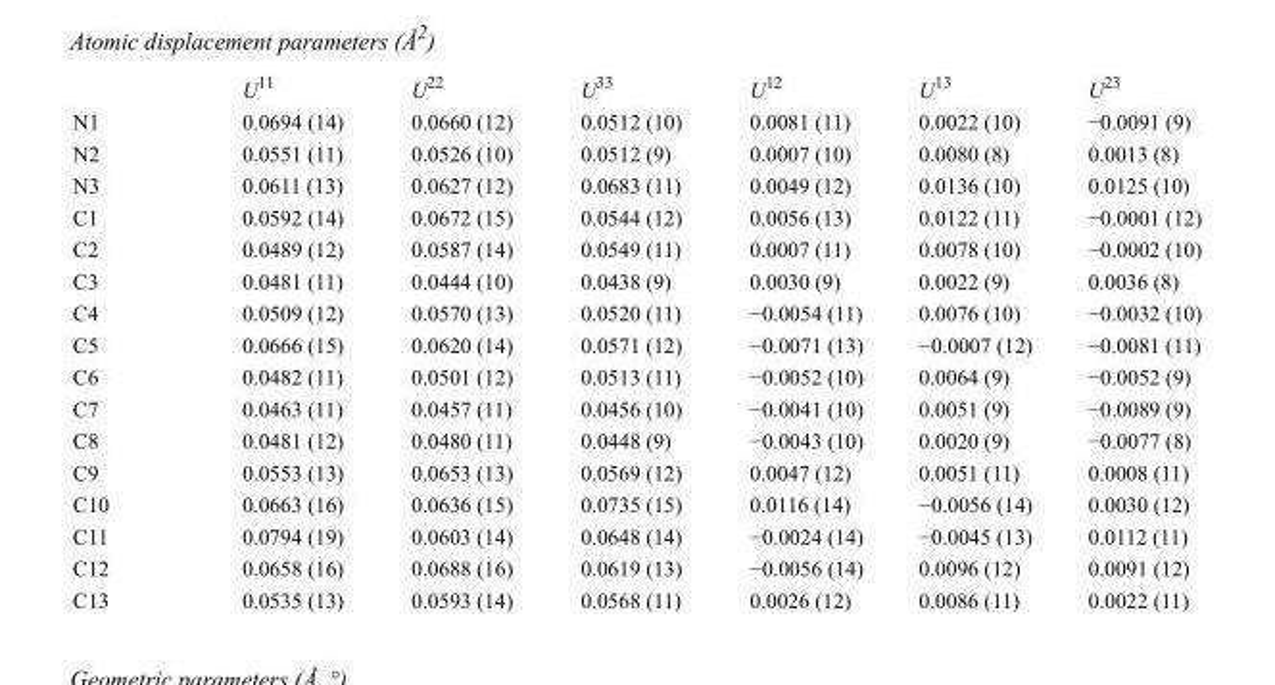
<table><thead><tr><td></td><td>U<sup>11</sup></td><td>U<sup>22</sup></td><td>U<sup>33</sup></td><td>U<sup>12</sup></td><td>U<sup>13</sup></td><td>U<sup>23</sup></td></tr></thead><tbody><tr><td>N1</td><td>0.0694 (14)</td><td>0.0660 (12)</td><td>0.0512 (10)</td><td>0.0081 (11)</td><td>0.0022 (10)</td><td>−0.0091 (9)</td></tr><tr><td>N2</td><td>0.0551 (11)</td><td>0.0526 (10)</td><td>0.0512 (9)</td><td>0.0007 (10)</td><td>0.0080 (8)</td><td>0.0013 (8)</td></tr><tr><td>N3</td><td>0.0611 (13)</td><td>0.0627 (12)</td><td>0.0683 (11)</td><td>0.0049 (12)</td><td>0.0136 (10)</td><td>0.0125 (10)</td></tr><tr><td>C1</td><td>0.0592 (14)</td><td>0.0672 (15)</td><td>0.0544 (12)</td><td>0.0056 (13)</td><td>0.0122 (11)</td><td>−0.0001 (12)</td></tr><tr><td>C2</td><td>0.0489 (12)</td><td>0.0587 (14)</td><td>0.0549 (11)</td><td>0.0007 (11)</td><td>0.0078 (10)</td><td>−0.0002 (10)</td></tr><tr><td>C3</td><td>0.0481 (11)</td><td>0.0444 (10)</td><td>0.0438 (9)</td><td>0.0030 (9)</td><td>0.0022 (9)</td><td>0.0036 (8)</td></tr><tr><td>C4</td><td>0.0509 (12)</td><td>0.0570 (13)</td><td>0.0520 (11)</td><td>−0.0054 (11)</td><td>0.0076 (10)</td><td>−0.0032 (10)</td></tr><tr><td>C5</td><td>0.0666 (15)</td><td>0.0620 (14)</td><td>0.0571 (12)</td><td>−0.0071 (13)</td><td>−0.0007 (12)</td><td>−0.0081 (11)</td></tr><tr><td>C6</td><td>0.0482 (11)</td><td>0.0501 (12)</td><td>0.0513 (11)</td><td>−0.0052 (10)</td><td>0.0064 (9)</td><td>−0.0052 (9)</td></tr><tr><td>C7</td><td>0.0463 (11)</td><td>0.0457 (11)</td><td>0.0456 (10)</td><td>−0.0041 (10)</td><td>0.0051 (9)</td><td>−0.0089 (9)</td></tr><tr><td>C8</td><td>0.0481 (12)</td><td>0.0480 (11)</td><td>0.0448 (9)</td><td>−0.0043 (10)</td><td>0.0020 (9)</td><td>−0.0077 (8)</td></tr><tr><td>C9</td><td>0.0553 (13)</td><td>0.0653 (13)</td><td>0.0569 (12)</td><td>0.0047 (12)</td><td>0.0051 (11)</td><td>0.0008 (11)</td></tr><tr><td>C10</td><td>0.0663 (16)</td><td>0.0636 (15)</td><td>0.0735 (15)</td><td>0.0116 (14)</td><td>−0.0056 (14)</td><td>0.0030 (12)</td></tr><tr><td>C11</td><td>0.0794 (19)</td><td>0.0603 (14)</td><td>0.0648 (14)</td><td>−0.0024 (14)</td><td>−0.0045 (13)</td><td>0.0112 (11)</td></tr><tr><td>C12</td><td>0.0658 (16)</td><td>0.0688 (16)</td><td>0.0619 (13)</td><td>−0.0056 (14)</td><td>0.0096 (12)</td><td>0.0091 (12)</td></tr><tr><td>C13</td><td>0.0535 (13)</td><td>0.0593 (14)</td><td>0.0568 (11)</td><td>0.0026 (12)</td><td>0.0086 (11)</td><td>0.0022 (11)</td></tr></tbody></table>